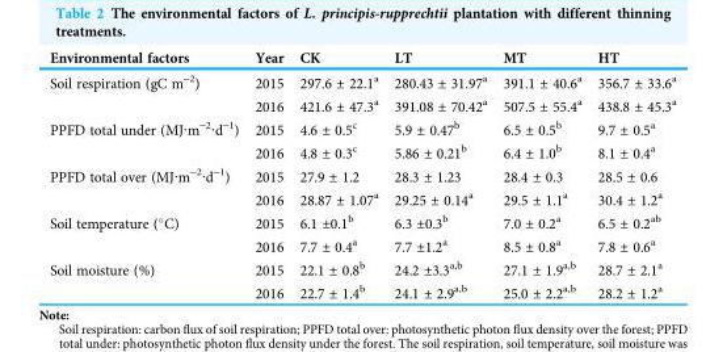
<table><thead><tr><td>Environmental factors</td><td>Year</td><td>CK</td><td>LT</td><td>MT</td><td>HT</td></tr></thead><tbody><tr><td rowspan="2">Soil respiration (gC m<sup>-2</sup>)</td><td>2015</td><td>297.6 ± 22.1<sup>a</sup></td><td>280.43 ± 31.97<sup>a</sup></td><td>391.1 ± 40.6<sup>a</sup></td><td>356.7 ± 33.6<sup>a</sup></td></tr><tr><td>2016</td><td>421.6 ± 47.3<sup>a</sup></td><td>391.08 ± 70.42<sup>a</sup></td><td>507.5 ± 55.4<sup>a</sup></td><td>438.8 ± 45.3<sup>a</sup></td></tr><tr><td rowspan="2">PPFD total under (MJ·m<sup>-2</sup>·d<sup>-1</sup>)</td><td>2015</td><td>4.6 ± 0.5<sup>c</sup></td><td>5.9 ± 0.47<sup>b</sup></td><td>6.5 ± 0.5<sup>b</sup></td><td>9.7 ± 0.5<sup>a</sup></td></tr><tr><td>2016</td><td>4.8 ± 0.3<sup>c</sup></td><td>5.86 ± 0.21<sup>b</sup></td><td>6.4 ± 1.0<sup>b</sup></td><td>8.1 ± 0.4<sup>a</sup></td></tr><tr><td rowspan="2">PPFD total over (MJ·m<sup>-2</sup>·d<sup>-1</sup>)</td><td>2015</td><td>27.9 ± 1.2</td><td>28.3 ± 1.23</td><td>28.4 ± 0.3</td><td>28.5 ± 0.6</td></tr><tr><td>2016</td><td>28.87 ± 1.07<sup>a</sup></td><td>29.25 ± 0.14<sup>a</sup></td><td>29.5 ± 1.1<sup>a</sup></td><td>30.4 ± 1.2<sup>a</sup></td></tr><tr><td rowspan="2">Soil temperature (°C)</td><td>2015</td><td>6.1 ±0.1<sup>b</sup></td><td>6.3 ±0.3<sup>b</sup></td><td>7.0 ± 0.2<sup>a</sup></td><td>6.5 ± 0.2<sup>ab</sup></td></tr><tr><td>2016</td><td>7.7 ± 0.4<sup>a</sup></td><td>7.7 ±1.2<sup>a</sup></td><td>8.5 ± 0.8<sup>a</sup></td><td>7.8 ± 0.6<sup>a</sup></td></tr><tr><td rowspan="2">Soil moisture (%)</td><td>2015</td><td>22.1 ± 0.8<sup>b</sup></td><td>24.2 ±3.3<sup>a,b</sup></td><td>27.1 ± 1.9<sup>a,b</sup></td><td>28.7 ± 2.1<sup>a</sup></td></tr><tr><td>2016</td><td>22.7 ± 1.4<sup>b</sup></td><td>24.1 ± 2.9<sup>a,b</sup></td><td>25.0 ± 2.2<sup>a,b</sup></td><td>28.2 ± 1.2<sup>a</sup></td></tr></tbody></table>